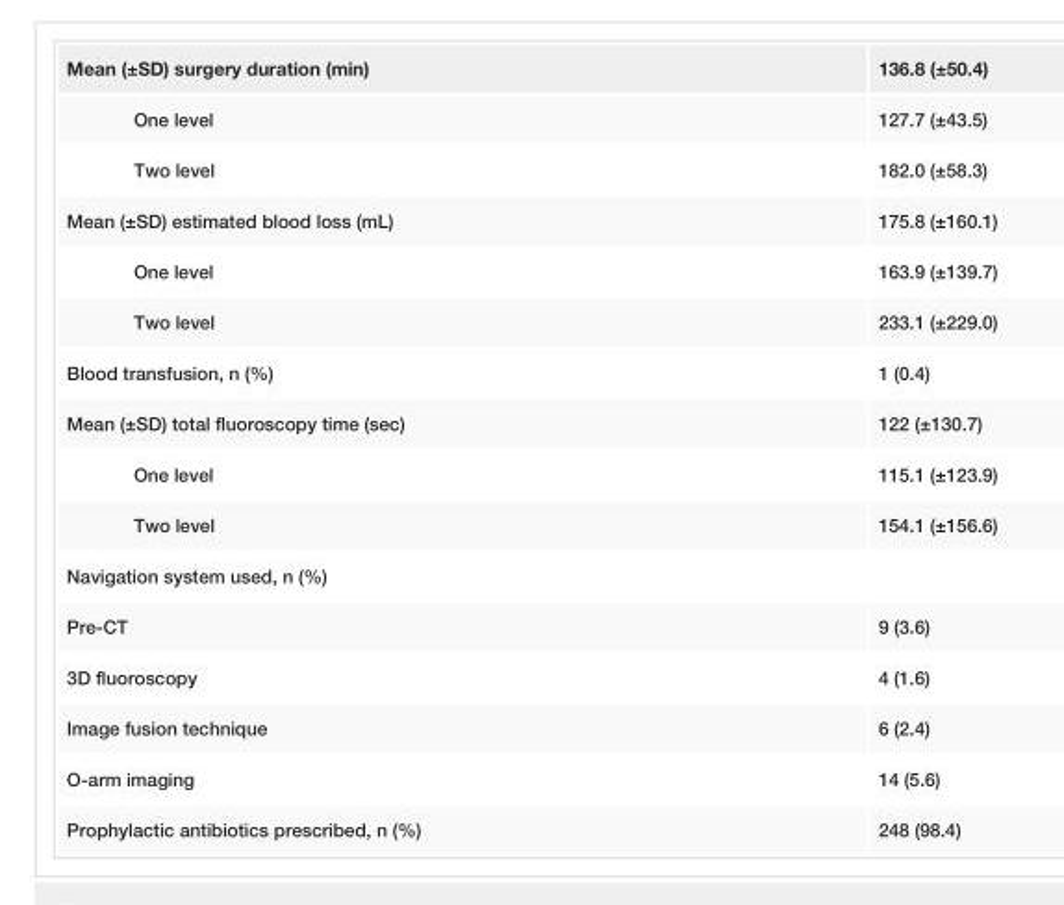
<table><tbody><tr><td>Mean (±SD) surgery duration (min)</td><td>136.8 (±50.4)</td></tr><tr><td>One level</td><td>127.7 (±43.5)</td></tr><tr><td>Two level</td><td>182.0 (±58.3)</td></tr><tr><td>Mean (±SD) estimated blood loss (mL)</td><td>175.8 (±160.1)</td></tr><tr><td>One level</td><td>163.9 (±139.7)</td></tr><tr><td>Two level</td><td>233.1 (±229.0)</td></tr><tr><td>Blood transfusion, n (%)</td><td>1 (0.4)</td></tr><tr><td>Mean (±SD) total fluoroscopy time (sec)</td><td>122 (±130.7)</td></tr><tr><td>One level</td><td>115.1 (±123.9)</td></tr><tr><td>Two level</td><td>154.1 (±156.6)</td></tr><tr><td colspan="2">Navigation system used, n (%)</td></tr><tr><td>Pre-CT</td><td>9 (3.6)</td></tr><tr><td>3D fluoroscopy</td><td>4 (1.6)</td></tr><tr><td>Image fusion technique</td><td>6 (2.4)</td></tr><tr><td>O-arm imaging</td><td>14 (5.6)</td></tr><tr><td>Prophylactic antibiotics prescribed, n (%)</td><td>248 (98.4)</td></tr></tbody></table>